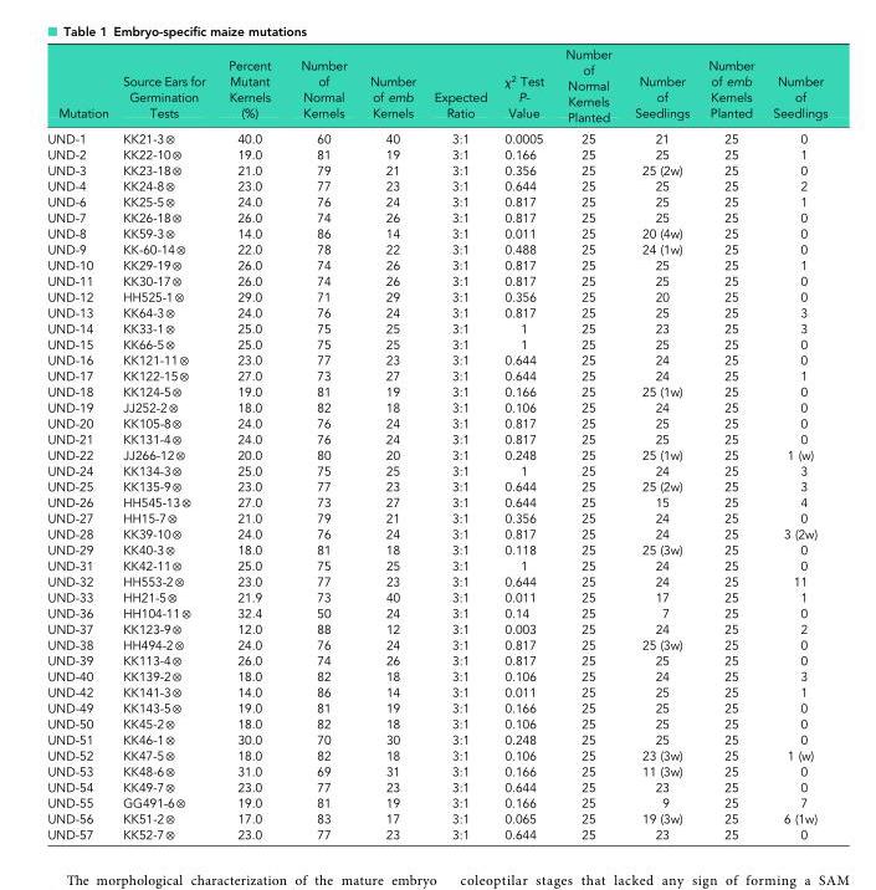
<table><thead><tr><td>Mutation</td><td>Source Ears for Germination Tests</td><td>Percent Mutant Kernels (%)</td><td>Number of Normal Kernels</td><td>Number of emb Kernels</td><td>Expected Ratio</td><td>χ<sup>2</sup> Test P- Value</td><td>Number of Normal Kernels Planted</td><td>Number of Seedlings</td><td>Number of emb Kernels Planted</td><td>Number of Seedlings</td></tr></thead><tbody><tr><td>UND-1</td><td>KK21-3⊗</td><td>40.0</td><td>60</td><td>40</td><td>3:1</td><td>0.0005</td><td>25</td><td>21</td><td>25</td><td>0</td></tr><tr><td>UND-2</td><td>KK22-10⊗</td><td>19.0</td><td>81</td><td>19</td><td>3:1</td><td>0.166</td><td>25</td><td>25</td><td>25</td><td>1</td></tr><tr><td>UND-3</td><td>KK23-18⊗</td><td>21.0</td><td>79</td><td>21</td><td>3:1</td><td>0.356</td><td>25</td><td>25 (2w)</td><td>25</td><td>0</td></tr><tr><td>UND-4</td><td>KK24-8⊗</td><td>23.0</td><td>77</td><td>23</td><td>3:1</td><td>0.644</td><td>25</td><td>25</td><td>25</td><td>2</td></tr><tr><td>UND-6</td><td>KK25-5⊗</td><td>24.0</td><td>76</td><td>24</td><td>3:1</td><td>0.817</td><td>25</td><td>25</td><td>25</td><td>1</td></tr><tr><td>UND-7</td><td>KK26-18⊗</td><td>26.0</td><td>74</td><td>26</td><td>3:1</td><td>0.817</td><td>25</td><td>25</td><td>25</td><td>0</td></tr><tr><td>UND-8</td><td>KK59-3⊗</td><td>14.0</td><td>86</td><td>14</td><td>3:1</td><td>0.011</td><td>25</td><td>20 (4w)</td><td>25</td><td>0</td></tr><tr><td>UND-9</td><td>KK-60-14⊗</td><td>22.0</td><td>78</td><td>22</td><td>3:1</td><td>0.488</td><td>25</td><td>24 (1w)</td><td>25</td><td>0</td></tr><tr><td>UND-10</td><td>KK29-19⊗</td><td>26.0</td><td>74</td><td>26</td><td>3:1</td><td>0.817</td><td>25</td><td>25</td><td>25</td><td>1</td></tr><tr><td>UND-11</td><td>KK30-17⊗</td><td>26.0</td><td>74</td><td>26</td><td>3:1</td><td>0.817</td><td>25</td><td>25</td><td>25</td><td>0</td></tr><tr><td>UND-12</td><td>HH525-1⊗</td><td>29.0</td><td>71</td><td>29</td><td>3:1</td><td>0.356</td><td>25</td><td>20</td><td>25</td><td>0</td></tr><tr><td>UND-13</td><td>KK64-3⊗</td><td>24.0</td><td>76</td><td>24</td><td>3:1</td><td>0.817</td><td>25</td><td>25</td><td>25</td><td>3</td></tr><tr><td>UND-14</td><td>KK33-1⊗</td><td>25.0</td><td>75</td><td>25</td><td>3:1</td><td>1</td><td>25</td><td>23</td><td>25</td><td>3</td></tr><tr><td>UND-15</td><td>KK66-5⊗</td><td>25.0</td><td>75</td><td>25</td><td>3:1</td><td>1</td><td>25</td><td>25</td><td>25</td><td>0</td></tr><tr><td>UND-16</td><td>KK121-11⊗</td><td>23.0</td><td>77</td><td>23</td><td>3:1</td><td>0.644</td><td>25</td><td>24</td><td>25</td><td>0</td></tr><tr><td>UND-17</td><td>KK122-15⊗</td><td>27.0</td><td>73</td><td>27</td><td>3:1</td><td>0.644</td><td>25</td><td>24</td><td>25</td><td>1</td></tr><tr><td>UND-18</td><td>KK124-5⊗</td><td>19.0</td><td>81</td><td>19</td><td>3:1</td><td>0.166</td><td>25</td><td>25 (1w)</td><td>25</td><td>0</td></tr><tr><td>UND-19</td><td>JJ252-2⊗</td><td>18.0</td><td>82</td><td>18</td><td>3:1</td><td>0.106</td><td>25</td><td>24</td><td>25</td><td>0</td></tr><tr><td>UND-20</td><td>KK105-8⊗</td><td>24.0</td><td>76</td><td>24</td><td>3:1</td><td>0.817</td><td>25</td><td>25</td><td>25</td><td>0</td></tr><tr><td>UND-21</td><td>KK131-4⊗</td><td>24.0</td><td>76</td><td>24</td><td>3:1</td><td>0.817</td><td>25</td><td>25</td><td>25</td><td>0</td></tr><tr><td>UND-22</td><td>JJ266-12⊗</td><td>20.0</td><td>80</td><td>20</td><td>3:1</td><td>0.248</td><td>25</td><td>25 (1w)</td><td>25</td><td>1 (w)</td></tr><tr><td>UND-24</td><td>KK134-3⊗</td><td>25.0</td><td>75</td><td>25</td><td>3:1</td><td>1</td><td>25</td><td>24</td><td>25</td><td>3</td></tr><tr><td>UND-25</td><td>KK135-9⊗</td><td>23.0</td><td>77</td><td>23</td><td>3:1</td><td>0.644</td><td>25</td><td>25 (2w)</td><td>25</td><td>3</td></tr><tr><td>UND-26</td><td>HH545-13⊗</td><td>27.0</td><td>73</td><td>27</td><td>3:1</td><td>0.644</td><td>25</td><td>15</td><td>25</td><td>4</td></tr><tr><td>UND-27</td><td>HH15-7⊗</td><td>21.0</td><td>79</td><td>21</td><td>3:1</td><td>0.356</td><td>25</td><td>24</td><td>25</td><td>0</td></tr><tr><td>UND-28</td><td>KK39-10⊗</td><td>24.0</td><td>76</td><td>24</td><td>3:1</td><td>0.817</td><td>25</td><td>24</td><td>25</td><td>3 (2w)</td></tr><tr><td>UND-29</td><td>KK40-3⊗</td><td>18.0</td><td>81</td><td>18</td><td>3:1</td><td>0.118</td><td>25</td><td>25 (3w)</td><td>25</td><td>0</td></tr><tr><td>UND-31</td><td>KK42-11⊗</td><td>25.0</td><td>75</td><td>25</td><td>3:1</td><td>1</td><td>25</td><td>24</td><td>25</td><td>0</td></tr><tr><td>UND-32</td><td>HH553-2⊗</td><td>23.0</td><td>77</td><td>23</td><td>3:1</td><td>0.644</td><td>25</td><td>24</td><td>25</td><td>11</td></tr><tr><td>UND-33</td><td>HH21-5⊗</td><td>21.9</td><td>73</td><td>40</td><td>3:1</td><td>0.011</td><td>25</td><td>17</td><td>25</td><td>1</td></tr><tr><td>UND-36</td><td>HH104-11⊗</td><td>32.4</td><td>50</td><td>24</td><td>3:1</td><td>0.14</td><td>25</td><td>7</td><td>25</td><td>0</td></tr><tr><td>UND-37</td><td>KK123-9⊗</td><td>12.0</td><td>88</td><td>12</td><td>3:1</td><td>0.003</td><td>25</td><td>24</td><td>25</td><td>2</td></tr><tr><td>UND-38</td><td>HH494-2⊗</td><td>24.0</td><td>76</td><td>24</td><td>3:1</td><td>0.817</td><td>25</td><td>25 (3w)</td><td>25</td><td>0</td></tr><tr><td>UND-39</td><td>KK113-4⊗</td><td>26.0</td><td>74</td><td>26</td><td>3:1</td><td>0.817</td><td>25</td><td>25</td><td>25</td><td>0</td></tr><tr><td>UND-40</td><td>KK139-2⊗</td><td>18.0</td><td>82</td><td>18</td><td>3:1</td><td>0.106</td><td>25</td><td>24</td><td>25</td><td>3</td></tr><tr><td>UND-42</td><td>KK141-3⊗</td><td>14.0</td><td>86</td><td>14</td><td>3:1</td><td>0.011</td><td>25</td><td>25</td><td>25</td><td>1</td></tr><tr><td>UND-49</td><td>KK143-5⊗</td><td>19.0</td><td>81</td><td>19</td><td>3:1</td><td>0.166</td><td>25</td><td>25</td><td>25</td><td>0</td></tr><tr><td>UND-50</td><td>KK45-2⊗</td><td>18.0</td><td>82</td><td>18</td><td>3:1</td><td>0.106</td><td>25</td><td>25</td><td>25</td><td>0</td></tr><tr><td>UND-51</td><td>KK46-1⊗</td><td>30.0</td><td>70</td><td>30</td><td>3:1</td><td>0.248</td><td>25</td><td>25</td><td>25</td><td>0</td></tr><tr><td>UND-52</td><td>KK47-5⊗</td><td>18.0</td><td>82</td><td>18</td><td>3:1</td><td>0.106</td><td>25</td><td>23 (3w)</td><td>25</td><td>1 (w)</td></tr><tr><td>UND-53</td><td>KK48-6⊗</td><td>31.0</td><td>69</td><td>31</td><td>3:1</td><td>0.166</td><td>25</td><td>11 (3w)</td><td>25</td><td>0</td></tr><tr><td>UND-54</td><td>KK49-7⊗</td><td>23.0</td><td>77</td><td>23</td><td>3:1</td><td>0.644</td><td>25</td><td>23</td><td>25</td><td>0</td></tr><tr><td>UND-55</td><td>GG491-6⊗</td><td>19.0</td><td>81</td><td>19</td><td>3:1</td><td>0.166</td><td>25</td><td>9</td><td>25</td><td>7</td></tr><tr><td>UND-56</td><td>KK51-2⊗</td><td>17.0</td><td>83</td><td>17</td><td>3:1</td><td>0.065</td><td>25</td><td>19 (3w)</td><td>25</td><td>6 (1w)</td></tr><tr><td>UND-57</td><td>KK52-7⊗</td><td>23.0</td><td>77</td><td>23</td><td>3:1</td><td>0.644</td><td>25</td><td>23</td><td>25</td><td>0</td></tr></tbody></table>